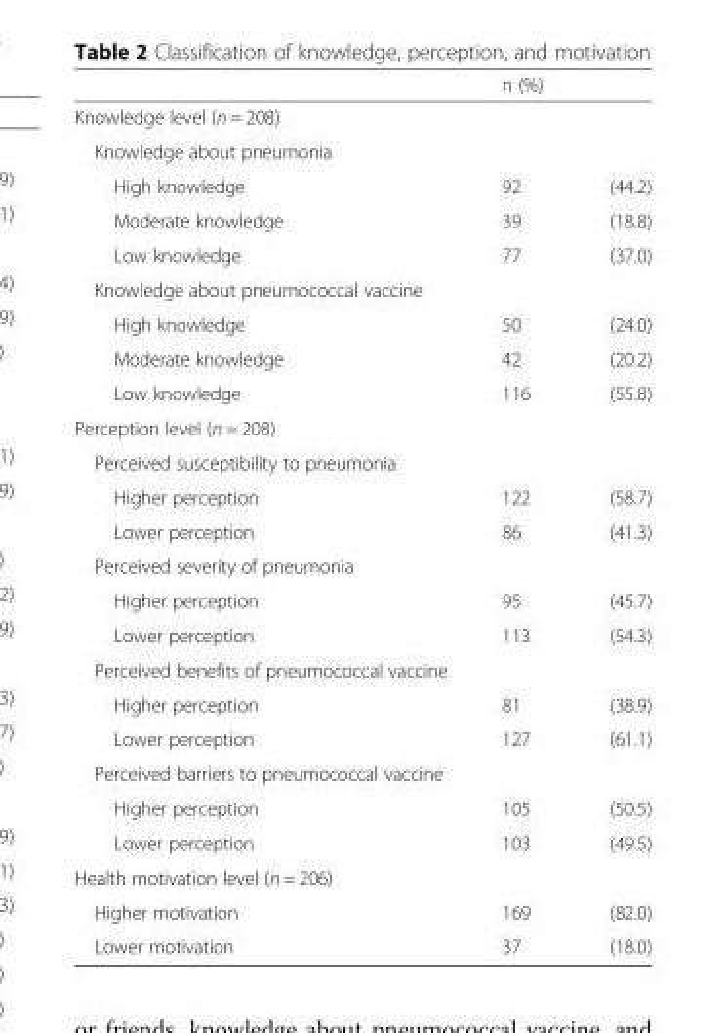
<table><thead><tr><td rowspan="2">Knowledge level (n = 208)</td><td rowspan="2" colspan="2">n (%)</td></tr><tr></tr><tr><td colspan="3">Knowledge about pneumonia</td></tr><tr><td>High knowledge</td><td>92</td><td>(44.2)</td></tr></thead><tbody><tr><td>Moderate knowledge</td><td>39</td><td>(18.8)</td></tr><tr><td>Low knowledge</td><td>77</td><td>(37.0)</td></tr><tr><td colspan="3">Knowledge about pneumococcal vaccine</td></tr><tr><td>High knowledge</td><td>50</td><td>(24.0)</td></tr><tr><td>Moderate knowledge</td><td>42</td><td>(20.2)</td></tr><tr><td>Low knowledge</td><td>116</td><td>(55.8)</td></tr><tr><td colspan="3">Perception level (n = 208)</td></tr><tr><td colspan="3">Perceived susceptibility to pneumonia</td></tr><tr><td>Higher perception</td><td>122</td><td>(58.7)</td></tr><tr><td>Lower perception</td><td>86</td><td>(41.3)</td></tr><tr><td colspan="3">Perceived severity of pneumonia</td></tr><tr><td>Higher perception</td><td>95</td><td>(45.7)</td></tr><tr><td>Lower perception</td><td>113</td><td>(54.3)</td></tr><tr><td colspan="3">Perceived benefits of pneumococcal vaccine</td></tr><tr><td>Higher perception</td><td>81</td><td>(38.9)</td></tr><tr><td>Lower perception</td><td>127</td><td>(61.1)</td></tr><tr><td colspan="3">Perceived barriers to pneumococcal vaccine</td></tr><tr><td>Higher perception</td><td>105</td><td>(50.5)</td></tr><tr><td>Lower perception</td><td>103</td><td>(49.5)</td></tr><tr><td colspan="3">Health motivation level (n = 206)</td></tr><tr><td>Higher motivation</td><td>169</td><td>(82.0)</td></tr><tr><td>Lower motivation</td><td>37</td><td>(18.0)</td></tr></tbody></table>